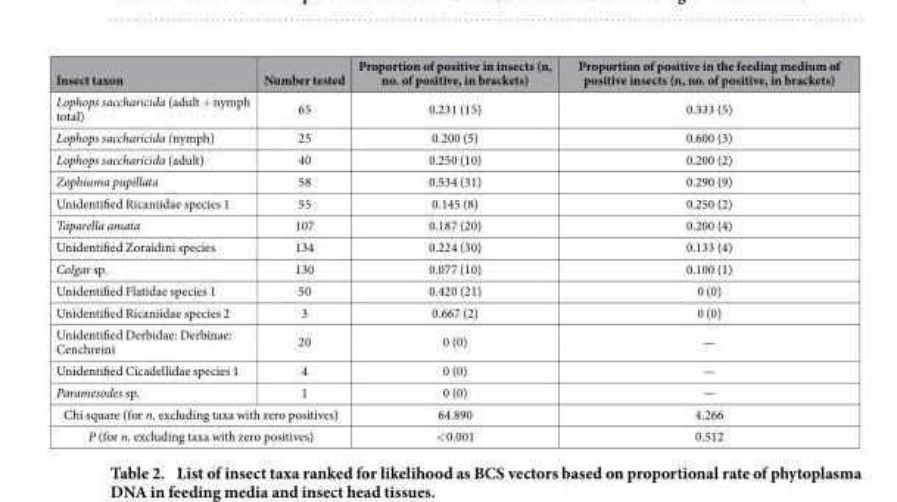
<table><thead><tr><td>Insect taxon</td><td>Number tested</td><td>Proportion of positive in insects (n, no. of positive, in brackets)</td><td>Proportion of positive in the feeding medium of positive insects (n, no. of positive, in brackets)</td></tr></thead><tbody><tr><td>Lophops saccharicida (adult + nymph total)</td><td>65</td><td>0.231 (15)</td><td>0.333 (5)</td></tr><tr><td>Lophops saccharicida (nymph)</td><td>25</td><td>0.200 (5)</td><td>0.600 (3)</td></tr><tr><td>Lophops saccharicida (adult)</td><td>40</td><td>0.250 (10)</td><td>0.200 (2)</td></tr><tr><td>Zophiuma pupillata</td><td>58</td><td>0.534 (31)</td><td>0.290 (9)</td></tr><tr><td>Unidentified Ricaniidae species 1</td><td>55</td><td>0.145 (8)</td><td>0.250 (2)</td></tr><tr><td>Taparella amata</td><td>107</td><td>0.187 (20)</td><td>0.200 (4)</td></tr><tr><td>Unidentified Zoraidini species</td><td>134</td><td>0.224 (30)</td><td>0.133 (4)</td></tr><tr><td>Colgar sp.</td><td>130</td><td>0.077 (10)</td><td>0.100 (1)</td></tr><tr><td>Unidentified Flatidae species 1</td><td>50</td><td>0.420 (21)</td><td>0 (0)</td></tr><tr><td>Unidentified Ricaniidae species 2</td><td>3</td><td>0.667 (2)</td><td>0 (0)</td></tr><tr><td>Unidentified Derbidae: Derbinae: Cenchreini</td><td>20</td><td>0 (0)</td><td>—</td></tr><tr><td>Unidentified Cicadellidae species 1</td><td>4</td><td>0 (0)</td><td>—</td></tr><tr><td>Paramesodes sp.</td><td>1</td><td>0 (0)</td><td>—</td></tr><tr><td colspan="2">Chi square (for n, excluding taxa with zero positives)</td><td>64.890</td><td>4.266</td></tr><tr><td colspan="2">P (for n, excluding taxa with zero positives)</td><td>&lt; 0.001</td><td>0.512</td></tr></tbody></table>